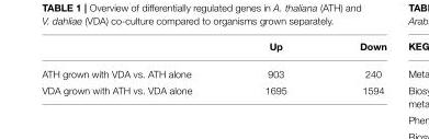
<table><thead><tr><td></td><td>Up</td><td>Down</td></tr></thead><tbody><tr><td>ATH grown with VDA vs. ATH alone</td><td>903</td><td>240</td></tr><tr><td>VDA grown with ATH vs. VDA alone</td><td>1695</td><td>1594</td></tr></tbody></table>